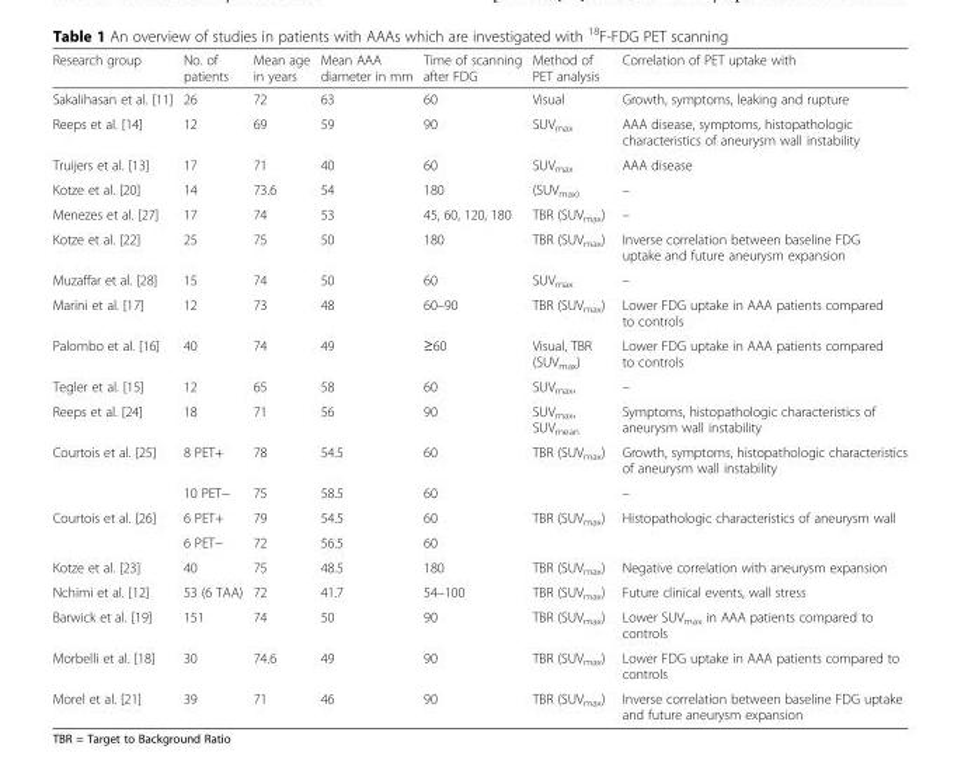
<table><thead><tr><td>Research group</td><td>No. of patients</td><td>Mean age in years</td><td>Mean AAA diameter in mm</td><td>Time of scanning after FDG</td><td>Method of PET analysis</td><td>Correlation of PET uptake with</td></tr></thead><tbody><tr><td>Sakalihasan et al. [11]</td><td>26</td><td>72</td><td>63</td><td>60</td><td>Visual</td><td>Growth, symptoms, leaking and rupture</td></tr><tr><td>Reeps et al. [14]</td><td>12</td><td>69</td><td>59</td><td>90</td><td>SUV<sub>max</sub></td><td>AAA disease, symptoms, histopathologic characteristics of aneurysm wall instability</td></tr><tr><td>Truijers et al. [13]</td><td>17</td><td>71</td><td>40</td><td>60</td><td>SUV<sub>max</sub></td><td>AAA disease</td></tr><tr><td>Kotze et al. [20]</td><td>14</td><td>73.6</td><td>54</td><td>180</td><td>(SUV<sub>max)</sub></td><td>–</td></tr><tr><td>Menezes et al. [27]</td><td>17</td><td>74</td><td>53</td><td>45, 60, 120, 180</td><td>TBR (SUV<sub>max</sub>)</td><td>–</td></tr><tr><td>Kotze et al. [22]</td><td>25</td><td>75</td><td>50</td><td>180</td><td>TBR (SUV<sub>max</sub>)</td><td>Inverse correlation between baseline FDG uptake and future aneurysm expansion</td></tr><tr><td>Muzaffar et al. [28]</td><td>15</td><td>74</td><td>50</td><td>60</td><td>SUV<sub>max</sub></td><td>–</td></tr><tr><td>Marini et al. [17]</td><td>12</td><td>73</td><td>48</td><td>60–90</td><td>TBR (SUV<sub>max</sub>)</td><td>Lower FDG uptake in AAA patients compared to controls</td></tr><tr><td>Palombo et al. [16]</td><td>40</td><td>74</td><td>49</td><td>≥60</td><td>Visual, TBR (SUV<sub>max</sub>)</td><td>Lower FDG uptake in AAA patients compared to controls</td></tr><tr><td>Tegler et al. [15]</td><td>12</td><td>65</td><td>58</td><td>60</td><td>SUV<sub>max</sub>,</td><td>–</td></tr><tr><td>Reeps et al. [24]</td><td>18</td><td>71</td><td>56</td><td>90</td><td>SUV<sub>max</sub>, SUV<sub>mean</sub></td><td>Symptoms, histopathologic characteristics of aneurysm wall instability</td></tr><tr><td rowspan="2">Courtois et al. [25]</td><td>8 PET+</td><td>78</td><td>54.5</td><td>60</td><td>TBR (SUV<sub>max</sub>)</td><td>Growth, symptoms, histopathologic characteristics of aneurysm wall instability</td></tr><tr><td>10 PET−</td><td>75</td><td>58.5</td><td>60</td><td></td><td>–</td></tr><tr><td rowspan="2">Courtois et al. [26]</td><td>6 PET+</td><td>79</td><td>54.5</td><td>60</td><td>TBR (SUV<sub>max</sub>)</td><td>Histopathologic characteristics of aneurysm wall</td></tr><tr><td>6 PET−</td><td>72</td><td>56.5</td><td>60</td><td></td><td></td></tr><tr><td>Kotze et al. [23]</td><td>40</td><td>75</td><td>48.5</td><td>180</td><td>TBR (SUV<sub>max</sub>)</td><td>Negative correlation with aneurysm expansion</td></tr><tr><td>Nchimi et al. [12]</td><td>53 (6 TAA)</td><td>72</td><td>41.7</td><td>54–100</td><td>TBR (SUV<sub>max</sub>)</td><td>Future clinical events, wall stress</td></tr><tr><td>Barwick et al. [19]</td><td>151</td><td>74</td><td>50</td><td>90</td><td>TBR (SUV<sub>max</sub>)</td><td>Lower SUV<sub>max</sub> in AAA patients compared to controls</td></tr><tr><td>Morbelli et al. [18]</td><td>30</td><td>74.6</td><td>49</td><td>90</td><td>TBR (SUV<sub>max</sub>)</td><td>Lower FDG uptake in AAA patients compared to controls</td></tr><tr><td>Morel et al. [21]</td><td>39</td><td>71</td><td>46</td><td>90</td><td>TBR (SUV<sub>max</sub>)</td><td>Inverse correlation between baseline FDG uptake and future aneurysm expansion</td></tr></tbody></table>